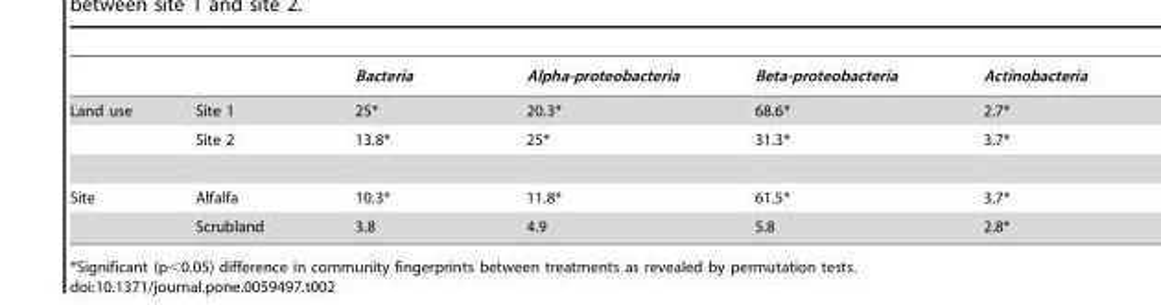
<table><thead><tr><td></td><td></td><td>Bacteria</td><td>Alpha-proteobacteria</td><td>Beta-proteobacteria</td><td>Actinobacteria</td></tr></thead><tbody><tr><td rowspan="2">Land use</td><td>Site 1</td><td>25*</td><td>20.3*</td><td>68.6*</td><td>2.7*</td></tr><tr><td>Site 2</td><td>13.8*</td><td>25*</td><td>31.3*</td><td>3.7*</td></tr><tr><td rowspan="2">Site</td><td>Alfalfa</td><td>10.3*</td><td>11.8*</td><td>61.5*</td><td>3.7*</td></tr><tr><td>Scrubland</td><td>3.8</td><td>4.9</td><td>5.8</td><td>2.8*</td></tr></tbody></table>